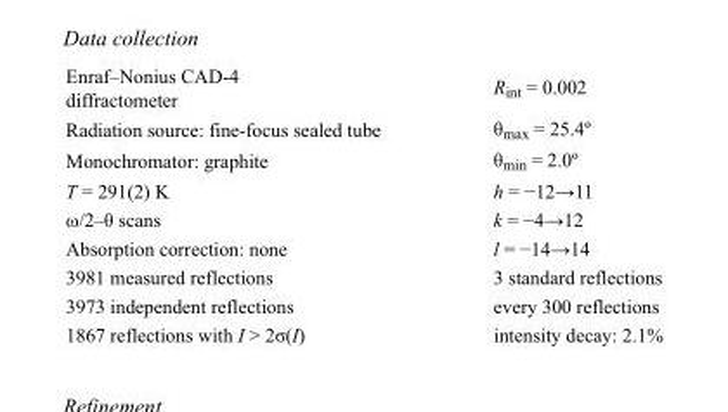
<table><tbody><tr><td>Enraf–Nonius CAD-4 diffractometer</td><td>R<sub>int</sub> = 0.002</td></tr><tr><td>Radiation source: fine-focus sealed tube</td><td>θ<sub>max</sub> = 25.4º</td></tr><tr><td>Monochromator: graphite</td><td>θ<sub>min</sub> = 2.0º</td></tr><tr><td>T = 291(2) K</td><td>h = −12→11</td></tr><tr><td>ω/2–θ scans</td><td>k = −4→12</td></tr><tr><td>Absorption correction: none</td><td>l = −14→14</td></tr><tr><td>3981 measured reflections</td><td>3 standard reflections</td></tr><tr><td>3973 independent reflections</td><td>every 300 reflections</td></tr><tr><td>1867 reflections with I &gt; 2σ(I)</td><td>intensity decay: 2.1%</td></tr></tbody></table>